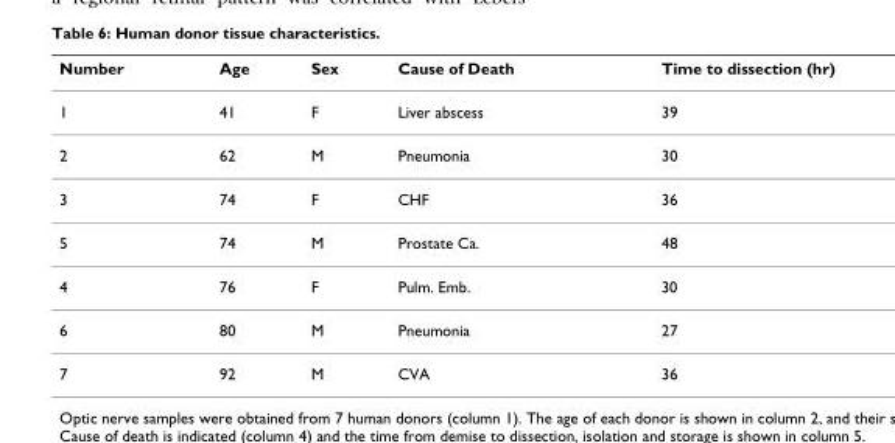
<table><thead><tr><td>Number</td><td>Age</td><td>Sex</td><td>Cause of Death</td><td>Time to dissection (hr)</td></tr></thead><tbody><tr><td>1</td><td>41</td><td>F</td><td>Liver abscess</td><td>39</td></tr><tr><td>2</td><td>62</td><td>M</td><td>Pneumonia</td><td>30</td></tr><tr><td>3</td><td>74</td><td>F</td><td>CHF</td><td>36</td></tr><tr><td>5</td><td>74</td><td>M</td><td>Prostate Ca.</td><td>48</td></tr><tr><td>4</td><td>76</td><td>F</td><td>Pulm. Emb.</td><td>30</td></tr><tr><td>6</td><td>80</td><td>M</td><td>Pneumonia</td><td>27</td></tr><tr><td>7</td><td>92</td><td>M</td><td>CVA</td><td>36</td></tr></tbody></table>